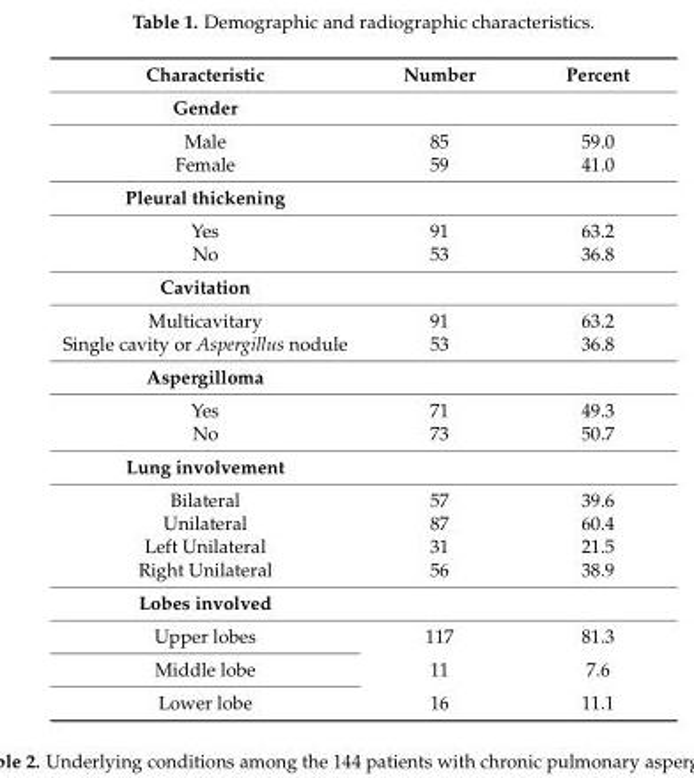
<table><thead><tr><td>Characteristic</td><td>Number</td><td>Percent</td></tr></thead><tbody><tr><td colspan="3">Gender</td></tr><tr><td>Male</td><td>85</td><td>59.0</td></tr><tr><td>Female</td><td>59</td><td>41.0</td></tr><tr><td colspan="3">Pleural thickening</td></tr><tr><td>Yes</td><td>91</td><td>63.2</td></tr><tr><td>No</td><td>53</td><td>36.8</td></tr><tr><td colspan="3">Cavitation</td></tr><tr><td>Multicavitary</td><td>91</td><td>63.2</td></tr><tr><td>Single cavity or Aspergillus nodule</td><td>53</td><td>36.8</td></tr><tr><td colspan="3">Aspergilloma</td></tr><tr><td>Yes</td><td>71</td><td>49.3</td></tr><tr><td>No</td><td>73</td><td>50.7</td></tr><tr><td colspan="3">Lung involvement</td></tr><tr><td>Bilateral</td><td>57</td><td>39.6</td></tr><tr><td>Unilateral</td><td>87</td><td>60.4</td></tr><tr><td>Left Unilateral</td><td>31</td><td>21.5</td></tr><tr><td>Right Unilateral</td><td>56</td><td>38.9</td></tr><tr><td colspan="3">Lobes involved</td></tr><tr><td>Upper lobes</td><td>117</td><td>81.3</td></tr><tr><td>Middle lobe</td><td>11</td><td>7.6</td></tr><tr><td>Lower lobe</td><td>16</td><td>11.1</td></tr></tbody></table>